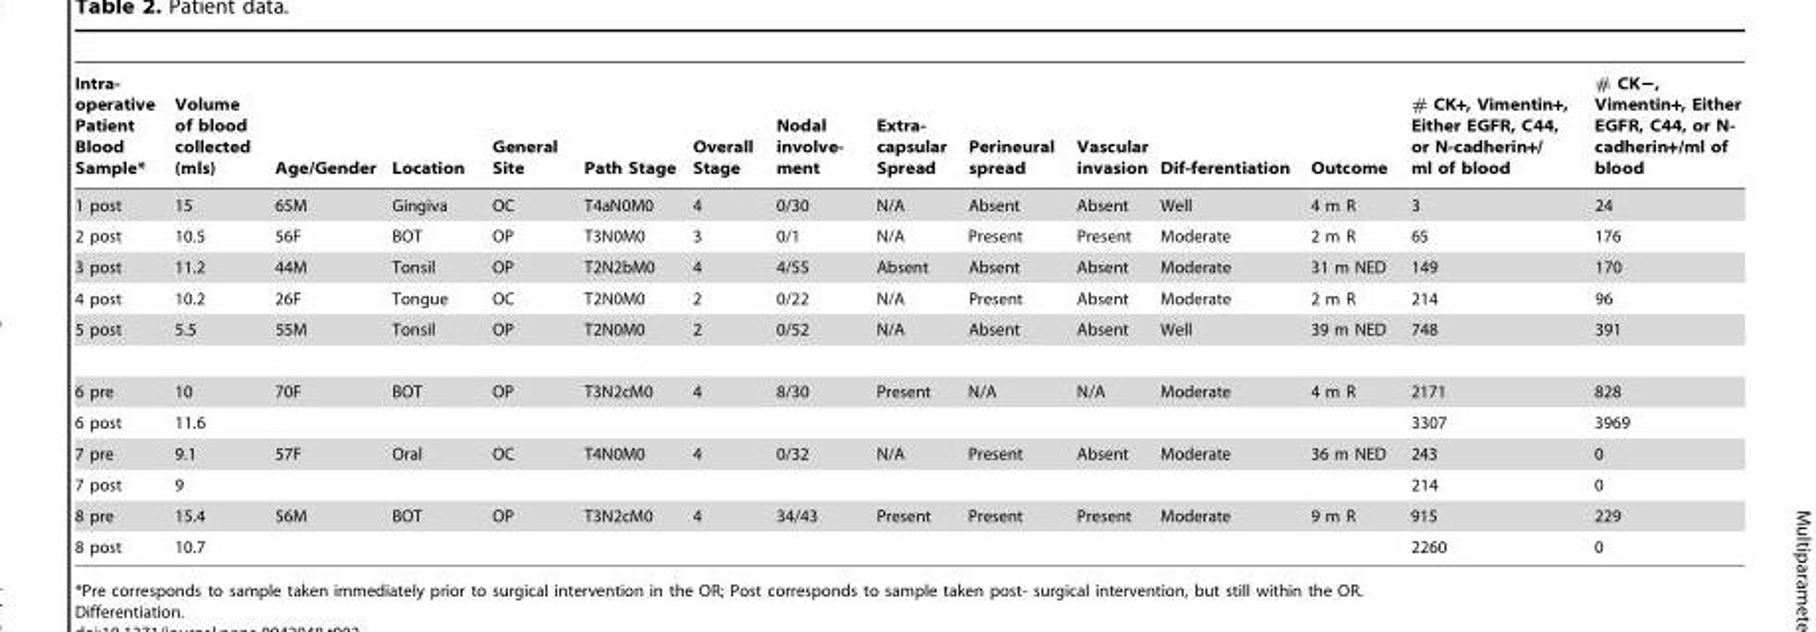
<table><thead><tr><td>Intra- operative Patient Blood Sample*</td><td>Volume of blood collected (mls)</td><td>Age/Gender</td><td>Location</td><td>General Site</td><td>Path Stage</td><td>Overall Stage</td><td>Nodal involve- ment</td><td>Extra- capsular Spread</td><td>Perineural spread</td><td>Vascular invasion</td><td>Dif-ferentiation</td><td>Outcome</td><td># CK+, Vimentin+, Either EGFR, C44, or N-cadherin+/ ml of blood</td><td># CK−, Vimentin+, Either EGFR, C44, or N- cadherin+/ml of blood</td></tr></thead><tbody><tr><td>1 post</td><td>15</td><td>65M</td><td>Gingiva</td><td>OC</td><td>T4aN0M0</td><td>4</td><td>0/30</td><td>N/A</td><td>Absent</td><td>Absent</td><td>Well</td><td>4 m R</td><td>3</td><td>24</td></tr><tr><td>2 post</td><td>10.5</td><td>56F</td><td>BOT</td><td>OP</td><td>T3N0M0</td><td>3</td><td>0/1</td><td>N/A</td><td>Present</td><td>Present</td><td>Moderate</td><td>2 m R</td><td>65</td><td>176</td></tr><tr><td>3 post</td><td>11.2</td><td>44M</td><td>Tonsil</td><td>OP</td><td>T2N2bM0</td><td>4</td><td>4/55</td><td>Absent</td><td>Absent</td><td>Absent</td><td>Moderate</td><td>31 m NED</td><td>149</td><td>170</td></tr><tr><td>4 post</td><td>10.2</td><td>26F</td><td>Tongue</td><td>OC</td><td>T2N0M0</td><td>2</td><td>0/22</td><td>N/A</td><td>Present</td><td>Absent</td><td>Moderate</td><td>2 m R</td><td>214</td><td>96</td></tr><tr><td>5 post</td><td>5.5</td><td>55M</td><td>Tonsil</td><td>OP</td><td>T2N0M0</td><td>2</td><td>0/52</td><td>N/A</td><td>Absent</td><td>Absent</td><td>Well</td><td>39 m NED</td><td>748</td><td>391</td></tr><tr><td>6 pre</td><td>10</td><td>70F</td><td>BOT</td><td>OP</td><td>T3N2cM0</td><td>4</td><td>8/30</td><td>Present</td><td>N/A</td><td>N/A</td><td>Moderate</td><td>4 m R</td><td>2171</td><td>828</td></tr><tr><td>6 post</td><td>11.6</td><td></td><td></td><td></td><td></td><td></td><td></td><td></td><td></td><td></td><td></td><td></td><td>3307</td><td>3969</td></tr><tr><td>7 pre</td><td>9.1</td><td>57F</td><td>Oral</td><td>OC</td><td>T4N0M0</td><td>4</td><td>0/32</td><td>N/A</td><td>Present</td><td>Absent</td><td>Moderate</td><td>36 m NED</td><td>243</td><td>0</td></tr><tr><td>7 post</td><td>9</td><td></td><td></td><td></td><td></td><td></td><td></td><td></td><td></td><td></td><td></td><td></td><td>214</td><td>0</td></tr><tr><td>8 pre</td><td>15.4</td><td>56M</td><td>BOT</td><td>OP</td><td>T3N2cM0</td><td>4</td><td>34/43</td><td>Present</td><td>Present</td><td>Present</td><td>Moderate</td><td>9 m R</td><td>915</td><td>229</td></tr><tr><td>8 post</td><td>10.7</td><td></td><td></td><td></td><td></td><td></td><td></td><td></td><td></td><td></td><td></td><td></td><td>2260</td><td>0</td></tr></tbody></table>